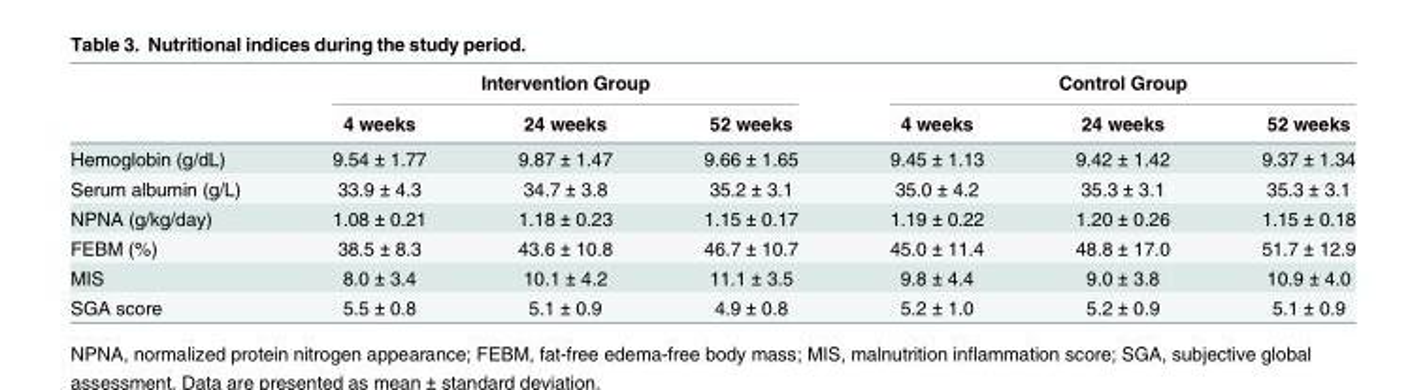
<table><thead><tr><td rowspan="2"></td><td colspan="3">Intervention Group</td><td colspan="3">Control Group</td></tr><tr><td>4 weeks</td><td>24 weeks</td><td>52 weeks</td><td>4 weeks</td><td>24 weeks</td><td>52 weeks</td></tr></thead><tbody><tr><td>Hemoglobin (g/dL)</td><td>9.54 ± 1.77</td><td>9.87 ± 1.47</td><td>9.66 ± 1.65</td><td>9.45 ± 1.13</td><td>9.42 ± 1.42</td><td>9.37 ± 1.34</td></tr><tr><td>Serum albumin (g/L)</td><td>33.9 ± 4.3</td><td>34.7 ± 3.8</td><td>35.2 ± 3.1</td><td>35.0 ± 4.2</td><td>35.3 ± 3.1</td><td>35.3 ± 3.1</td></tr><tr><td>NPNA (g/kg/day)</td><td>1.08 ± 0.21</td><td>1.18 ± 0.23</td><td>1.15 ± 0.17</td><td>1.19 ± 0.22</td><td>1.20 ± 0.26</td><td>1.15 ± 0.18</td></tr><tr><td>FEBM (%)</td><td>38.5 ± 8.3</td><td>43.6 ± 10.8</td><td>46.7 ± 10.7</td><td>45.0 ± 11.4</td><td>48.8 ± 17.0</td><td>51.7 ± 12.9</td></tr><tr><td>MIS</td><td>8.0 ± 3.4</td><td>10.1 ± 4.2</td><td>11.1 ± 3.5</td><td>9.8 ± 4.4</td><td>9.0 ± 3.8</td><td>10.9 ± 4.0</td></tr><tr><td>SGA score</td><td>5.5 ± 0.8</td><td>5.1 ± 0.9</td><td>4.9 ± 0.8</td><td>5.2 ± 1.0</td><td>5.2 ± 0.9</td><td>5.1 ± 0.9</td></tr></tbody></table>